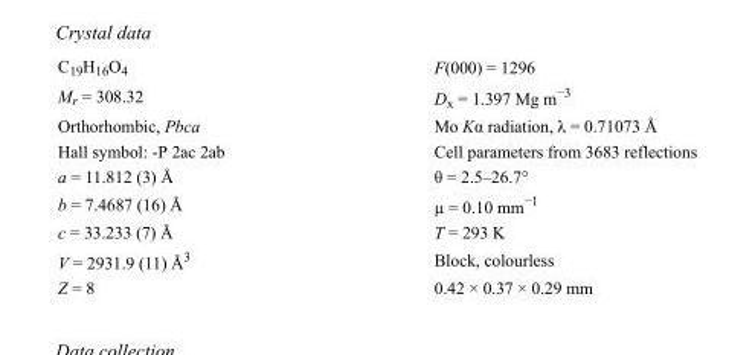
<table><tbody><tr><td>C<sub>19</sub>H<sub>16</sub>O<sub>4</sub></td><td>F(000) = 1296</td></tr><tr><td>M<sub>r</sub> = 308.32</td><td>D<sub>x</sub> = 1.397 Mg m<sup>−3</sup></td></tr><tr><td>Orthorhombic, Pbca</td><td>Mo Kα radiation, λ = 0.71073 Å</td></tr><tr><td>Hall symbol: -P 2ac 2ab</td><td>Cell parameters from 3683 reflections</td></tr><tr><td>a = 11.812 (3) Å</td><td>θ = 2.5–26.7°</td></tr><tr><td>b = 7.4687 (16) Å</td><td>µ = 0.10 mm<sup>−1</sup></td></tr><tr><td>c = 33.233 (7) Å</td><td>T = 293 K</td></tr><tr><td>V = 2931.9 (11) Å<sup>3</sup></td><td>Block, colourless</td></tr><tr><td>Z = 8</td><td>0.42 × 0.37 × 0.29 mm</td></tr></tbody></table>